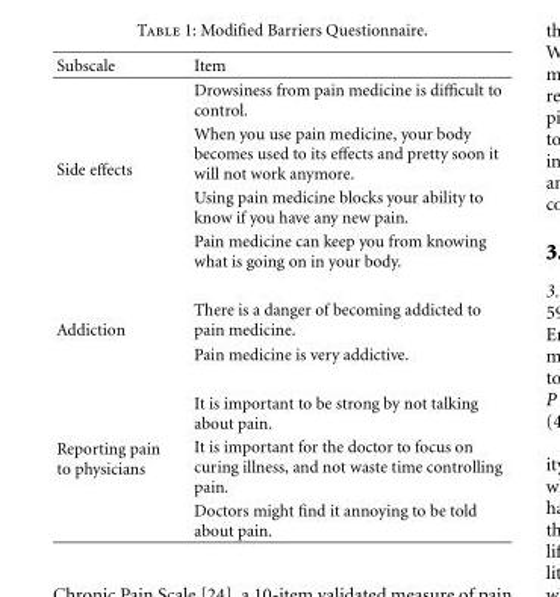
<table><thead><tr><td>Subscale</td><td>Item</td></tr></thead><tbody><tr><td rowspan="4">Side effects</td><td>Drowsiness from pain medicine is difficult to control.</td></tr><tr><td>When you use pain medicine, your body becomes used to its effects and pretty soon it will not work anymore.</td></tr><tr><td>Using pain medicine blocks your ability to know if you have any new pain.</td></tr><tr><td>Pain medicine can keep you from knowing what is going on in your body.</td></tr><tr><td rowspan="2">Addiction</td><td>There is a danger of becoming addicted to pain medicine.</td></tr><tr><td>Pain medicine is very addictive.</td></tr><tr><td rowspan="3">Reporting pain to physicians</td><td>It is important to be strong by not talking about pain.</td></tr><tr><td>It is important for the doctor to focus on curing illness, and not waste time controlling pain.</td></tr><tr><td>Doctors might find it annoying to be told about pain.</td></tr></tbody></table>